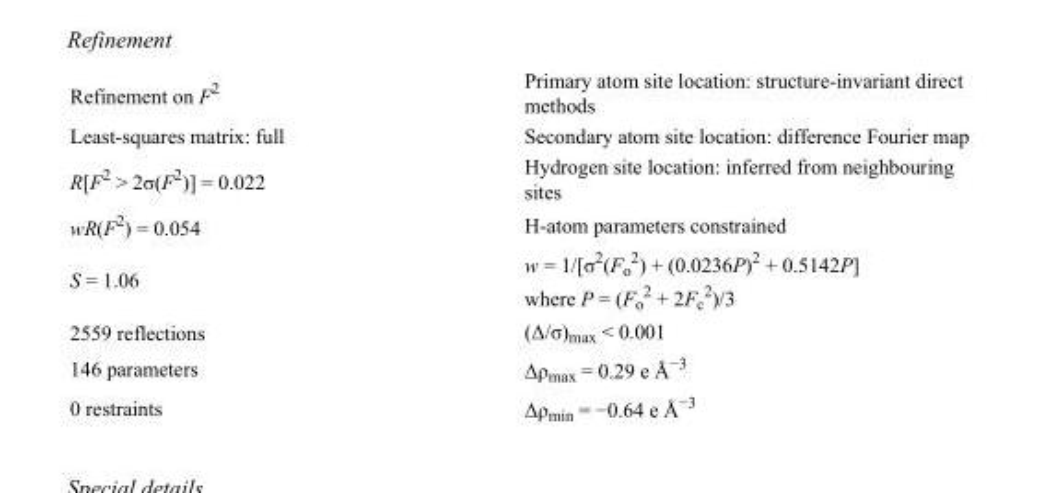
<table><tbody><tr><td>Refinement on F<sup>2</sup></td><td>Primary atom site location: structure-invariant direct methods</td></tr><tr><td>Least-squares matrix: full</td><td>Secondary atom site location: difference Fourier map</td></tr><tr><td>R[F<sup>2</sup> &gt; 2σ(F<sup>2</sup>)] = 0.022</td><td>Hydrogen site location: inferred from neighbouring sites</td></tr><tr><td>wR(F<sup>2</sup>) = 0.054</td><td>H-atom parameters constrained</td></tr><tr><td>S = 1.06</td><td>w = 1/[σ<sup>2</sup>(F<sub>o</sub> <sup>2</sup>) + (0.0236P)<sup>2</sup> + 0.5142P] where P = (F<sub>o</sub> <sup>2</sup> + 2F<sub>c</sub> <sup>2</sup>)/3</td></tr><tr><td>2559 reflections</td><td>(Δ/σ)<sub>max</sub> &lt; 0.001</td></tr><tr><td>146 parameters</td><td>Δρ<sub>max</sub> = 0.29 e Å<sup>−3</sup></td></tr><tr><td>0 restraints</td><td>Δρ<sub>min</sub> = −0.64 e Å<sup>−3</sup></td></tr></tbody></table>